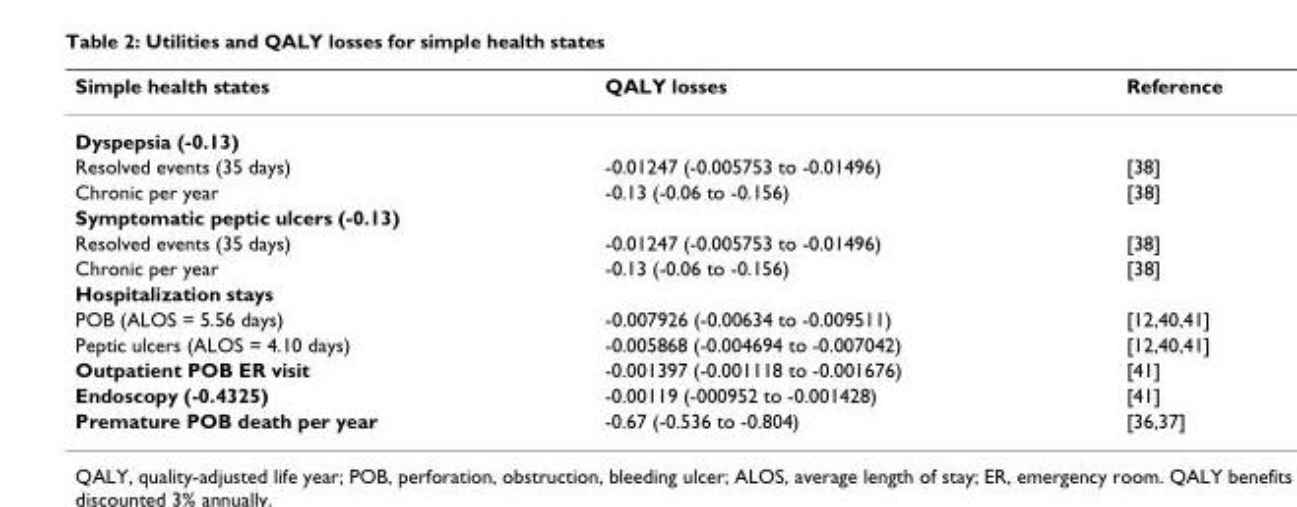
<table><thead><tr><td>Simple health states</td><td>QALY losses</td><td>Reference</td></tr></thead><tbody><tr><td colspan="3">Dyspepsia (-0.13)</td></tr><tr><td>Resolved events (35 days)</td><td>-0.01247 (-0.005753 to -0.01496)</td><td>[38]</td></tr><tr><td>Chronic per year</td><td>-0.13 (-0.06 to -0.156)</td><td>[38]</td></tr><tr><td colspan="3">Symptomatic peptic ulcers (-0.13)</td></tr><tr><td>Resolved events (35 days)</td><td>-0.01247 (-0.005753 to -0.01496)</td><td>[38]</td></tr><tr><td>Chronic per year</td><td>-0.13 (-0.06 to -0.156)</td><td>[38]</td></tr><tr><td colspan="3">Hospitalization stays</td></tr><tr><td>POB (ALOS = 5.56 days)</td><td>-0.007926 (-0.00634 to -0.009511)</td><td>[12,40,41]</td></tr><tr><td>Peptic ulcers (ALOS = 4.10 days)</td><td>-0.005868 (-0.004694 to -0.007042)</td><td>[12,40,41]</td></tr><tr><td>Outpatient POB ER visit</td><td>-0.001397 (-0.001118 to -0.001676)</td><td>[41]</td></tr><tr><td>Endoscopy (-0.4325)</td><td>-0.00119 (-000952 to -0.001428)</td><td>[41]</td></tr><tr><td>Premature POB death per year</td><td>-0.67 (-0.536 to -0.804)</td><td>[36,37]</td></tr></tbody></table>